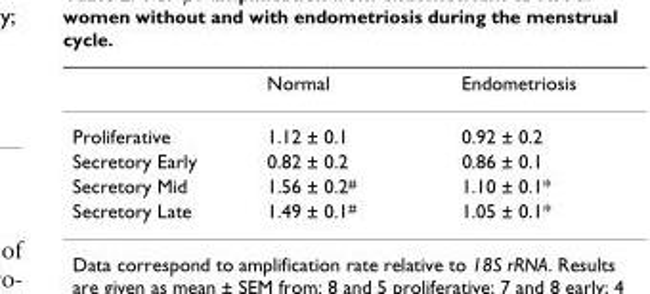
<table><thead><tr><td></td><td>Normal</td><td>Endometriosis</td></tr></thead><tbody><tr><td>Proliferative</td><td>1.12 ± 0.1</td><td>0.92 ± 0.2</td></tr><tr><td>Secretory Early</td><td>0.82 ± 0.2</td><td>0.86 ± 0.1</td></tr><tr><td>Secretory Mid</td><td>1.56 ± 0.2<sup>#</sup></td><td>1.10 ± 0.1*</td></tr><tr><td>Secretory Late</td><td>1.49 ± 0.1<sup>#</sup></td><td>1.05 ± 0.1*</td></tr></tbody></table>